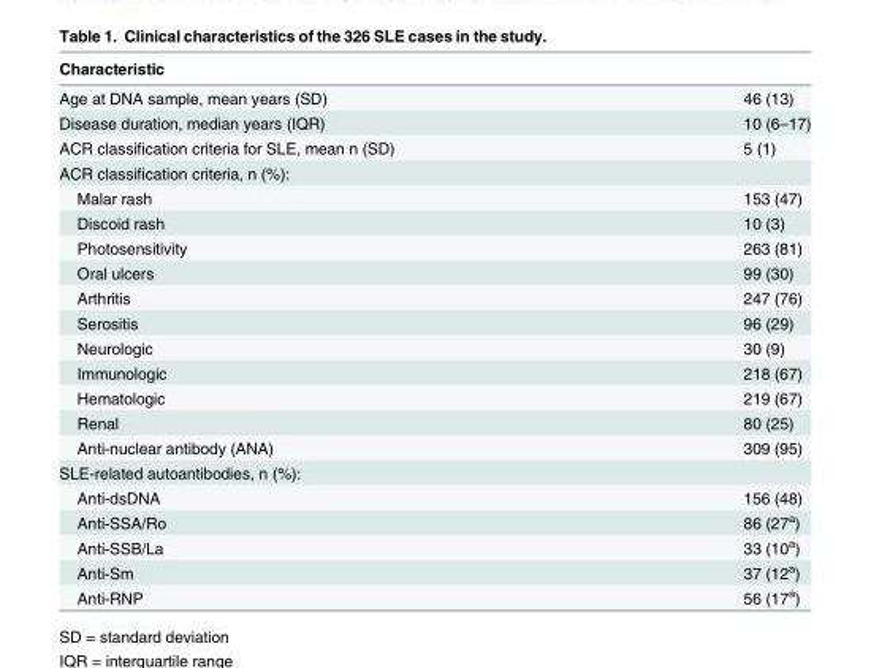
<table><thead><tr><td>Characteristic</td><td></td></tr></thead><tbody><tr><td>Age at DNA sample, mean years (SD)</td><td>46 (13)</td></tr><tr><td>Disease duration, median years (IQR)</td><td>10 (6–17)</td></tr><tr><td>ACR classification criteria for SLE, mean n (SD)</td><td>5 (1)</td></tr><tr><td colspan="2">ACR classification criteria, n (%):</td></tr><tr><td>Malar rash</td><td>153 (47)</td></tr><tr><td>Discoid rash</td><td>10 (3)</td></tr><tr><td>Photosensitivity</td><td>263 (81)</td></tr><tr><td>Oral ulcers</td><td>99 (30)</td></tr><tr><td>Arthritis</td><td>247 (76)</td></tr><tr><td>Serositis</td><td>96 (29)</td></tr><tr><td>Neurologic</td><td>30 (9)</td></tr><tr><td>Immunologic</td><td>218 (67)</td></tr><tr><td>Hematologic</td><td>219 (67)</td></tr><tr><td>Renal</td><td>80 (25)</td></tr><tr><td>Anti-nuclear antibody (ANA)</td><td>309 (95)</td></tr><tr><td colspan="2">SLE-related autoantibodies, n (%):</td></tr><tr><td>Anti-dsDNA</td><td>156 (48)</td></tr><tr><td>Anti-SSA/Ro</td><td>86 (27<sup>a</sup>)</td></tr><tr><td>Anti-SSB/La</td><td>33 (10<sup>a</sup>)</td></tr><tr><td>Anti-Sm</td><td>37 (12<sup>a</sup>)</td></tr><tr><td>Anti-RNP</td><td>56 (17<sup>a</sup>)</td></tr></tbody></table>